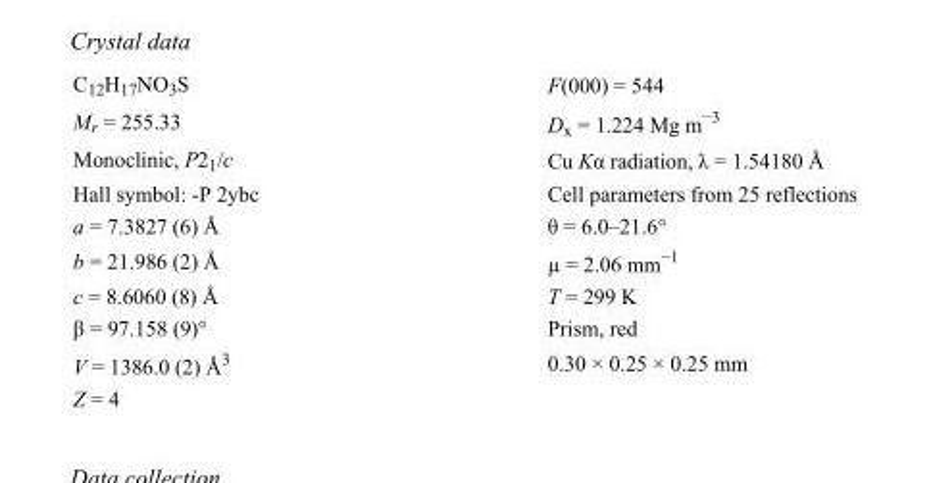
<table><tbody><tr><td>C<sub>12</sub>H<sub>17</sub>NO<sub>3</sub>S</td><td>F(000) = 544</td></tr><tr><td>M<sub>r</sub> = 255.33</td><td>D<sub>x</sub> = 1.224 Mg m<sup>−3</sup></td></tr><tr><td>Monoclinic, P2<sub>1</sub>/c</td><td>Cu Kα radiation, λ = 1.54180 Å</td></tr><tr><td>Hall symbol: -P 2ybc</td><td>Cell parameters from 25 reflections</td></tr><tr><td>a = 7.3827 (6) Å</td><td>θ = 6.0–21.6°</td></tr><tr><td>b = 21.986 (2) Å</td><td>µ = 2.06 mm<sup>−1</sup></td></tr><tr><td>c = 8.6060 (8) Å</td><td>T = 299 K</td></tr><tr><td>β = 97.158 (9)°</td><td>Prism, red</td></tr><tr><td>V = 1386.0 (2) Å<sup>3</sup></td><td>0.30 × 0.25 × 0.25 mm</td></tr><tr><td>Z = 4</td><td></td></tr></tbody></table>